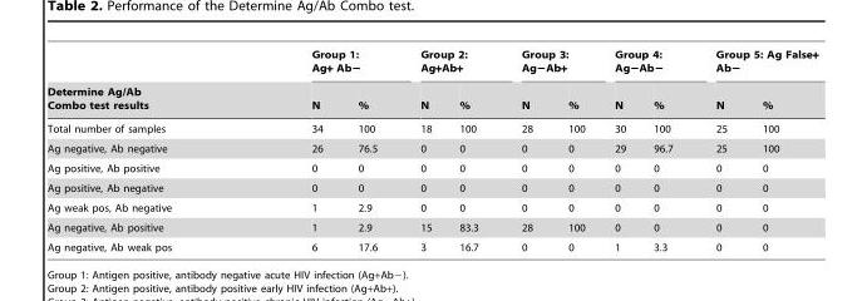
<table><thead><tr><td rowspan="2">Determine Ag/Ab Combo test results</td><td colspan="2">Group 1: Ag+ Ab−</td><td colspan="2">Group 2: Ag+Ab+</td><td colspan="2">Group 3: Ag−Ab+</td><td colspan="2">Group 4: Ag−Ab−</td><td colspan="2">Group 5: Ag False+ Ab−</td></tr><tr><td>N</td><td>%</td><td>N</td><td>%</td><td>N</td><td>%</td><td>N</td><td>%</td><td>N</td><td>%</td></tr></thead><tbody><tr><td>Total number of samples</td><td>34</td><td>100</td><td>18</td><td>100</td><td>28</td><td>100</td><td>30</td><td>100</td><td>25</td><td>100</td></tr><tr><td>Ag negative, Ab negative</td><td>26</td><td>76.5</td><td>0</td><td>0</td><td>0</td><td>0</td><td>29</td><td>96.7</td><td>25</td><td>100</td></tr><tr><td>Ag positive, Ab positive</td><td>0</td><td>0</td><td>0</td><td>0</td><td>0</td><td>0</td><td>0</td><td>0</td><td>0</td><td>0</td></tr><tr><td>Ag positive, Ab negative</td><td>0</td><td>0</td><td>0</td><td>0</td><td>0</td><td>0</td><td>0</td><td>0</td><td>0</td><td>0</td></tr><tr><td>Ag weak pos, Ab negative</td><td>1</td><td>2.9</td><td>0</td><td>0</td><td>0</td><td>0</td><td>0</td><td>0</td><td>0</td><td>0</td></tr><tr><td>Ag negative, Ab positive</td><td>1</td><td>2.9</td><td>15</td><td>83.3</td><td>28</td><td>100</td><td>0</td><td>0</td><td>0</td><td>0</td></tr><tr><td>Ag negative, Ab weak pos</td><td>6</td><td>17.6</td><td>3</td><td>16.7</td><td>0</td><td>0</td><td>1</td><td>3.3</td><td>0</td><td>0</td></tr></tbody></table>